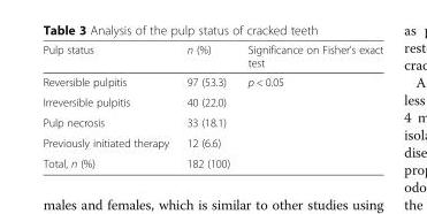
<table><thead><tr><td>Pulp status</td><td>n (%)</td><td>Significance on Fisher’s exact test</td></tr></thead><tbody><tr><td>Reversible pulpitis</td><td>97 (53.3)</td><td>p &lt; 0.05</td></tr><tr><td>Irreversible pulpitis</td><td>40 (22.0)</td><td></td></tr><tr><td>Pulp necrosis</td><td>33 (18.1)</td><td></td></tr><tr><td>Previously initiated therapy</td><td>12 (6.6)</td><td></td></tr><tr><td>Total, n (%)</td><td>182 (100)</td><td></td></tr></tbody></table>